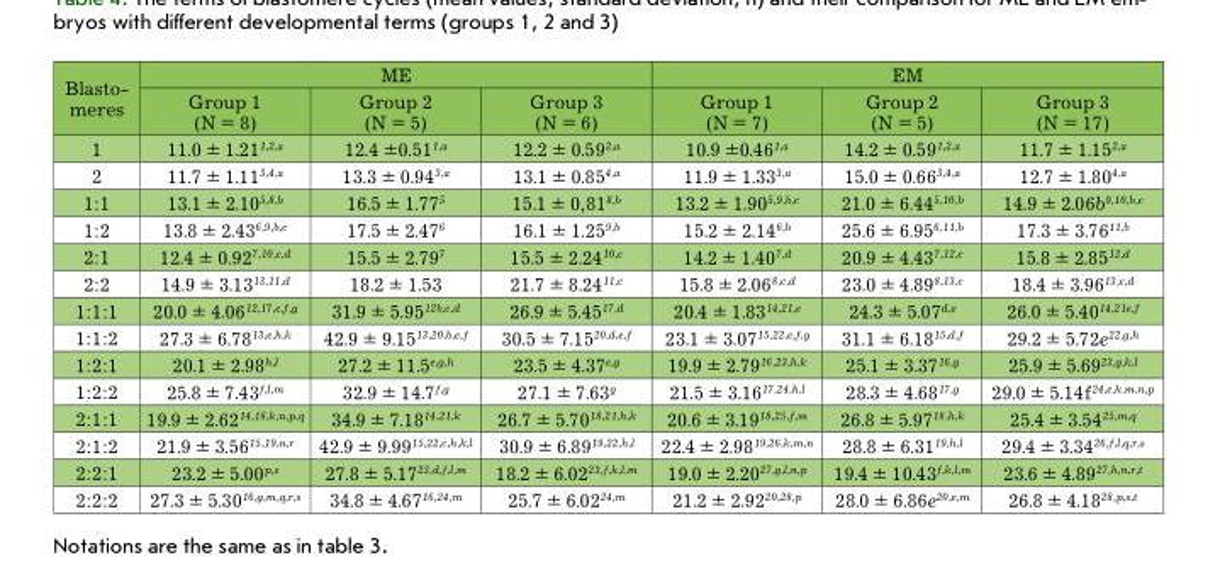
<table><thead><tr><td rowspan="2">Blasto- meres</td><td colspan="3">ME</td><td colspan="3">EM</td></tr><tr><td>Group 1 (N = 8)</td><td>Group 2 (N = 5)</td><td>Group 3 (N = 6)</td><td>Group 1 (N = 7)</td><td>Group 2 (N = 5)</td><td>Group 3 (N = 17)</td></tr></thead><tbody><tr><td>1</td><td>11.0 ± 1.21<sup>1,2,a</sup></td><td>12.4 ±0.51<sup>1,a</sup></td><td>12.2 ± 0.59<sup>2,a</sup></td><td>10.9 ±0.46<sup>1,a</sup></td><td>14.2 ± 0.59<sup>1,2,a</sup></td><td>11.7 ± 1.15<sup>2,a</sup></td></tr><tr><td>2</td><td>11.7 ± 1.11<sup>3,4,a</sup></td><td>13.3 ± 0.94<sup>3,a</sup></td><td>13.1 ± 0.85<sup>4,a</sup></td><td>11.9 ± 1.33<sup>3,a</sup></td><td>15.0 ± 0.66<sup>3,4,a</sup></td><td>12.7 ± 1.80<sup>4,a</sup></td></tr><tr><td>1:1</td><td>13.1 ± 2.10<sup>5,8,b</sup></td><td>16.5 ± 1.77<sup>5</sup></td><td>15.1 ± 0,81<sup>8,b</sup></td><td>13.2 ± 1.90<sup>5,9,b,c</sup></td><td>21.0 ± 6.44<sup>5,10,b</sup></td><td>14.9 ± 2.06<sup>b9,10,b,c</sup></td></tr><tr><td>1:2</td><td>13.8 ± 2.43<sup>6,9,b,c</sup></td><td>17.5 ± 2.47<sup>6</sup></td><td>16.1 ± 1.25<sup>9,b</sup></td><td>15.2 ± 2.14<sup>6,b</sup></td><td>25.6 ± 6.95<sup>6,11,b</sup></td><td>17.3 ± 3.76<sup>11,b</sup></td></tr><tr><td>2:1</td><td>12.4 ± 0.92<sup>7,10,c,d</sup></td><td>15.5 ± 2.79<sup>7</sup></td><td>15.5 ± 2.24<sup>10,c</sup></td><td>14.2 ± 1.40<sup>7,d</sup></td><td>20.9 ± 4.43<sup>7,12,c</sup></td><td>15.8 ± 2.85<sup>12,d</sup></td></tr><tr><td>2:2</td><td>14.9 ± 3.13<sup>13,11,d</sup></td><td>18.2 ± 1.53</td><td>21.7 ± 8.24<sup>11,c</sup></td><td>15.8 ± 2.06<sup>8,c,d</sup></td><td>23.0 ± 4.89<sup>8,13,c</sup></td><td>18.4 ± 3.96<sup>13,c,d</sup></td></tr><tr><td>1:1:1</td><td>20.0 ± 4.06<sup>12,17,e,f,g</sup></td><td>31.9 ± 5.95<sup>12b,c,d</sup></td><td>26.9 ± 5.45<sup>17,d</sup></td><td>20.4 ± 1.83<sup>14,21,e</sup></td><td>24.3 ± 5.07<sup>d,e</sup></td><td>26.0 ± 5.40<sup>14,21e,f</sup></td></tr><tr><td>1:1:2</td><td>27.3 ± 6.78<sup>13,e,h,k</sup></td><td>42.9 ± 9.15<sup>13,20,b,e,f</sup></td><td>30.5 ± 7.15<sup>20,d,e,f</sup></td><td>23.1 ± 3.07<sup>15,22,e,f,g</sup></td><td>31.1 ± 6.18<sup>15,d,f</sup></td><td>29.2 ± 5.72<sup>e22,g,h</sup></td></tr><tr><td>1:2:1</td><td>20.1 ± 2.98<sup>h,l</sup></td><td>27.2 ± 11.5<sup>e,g,h</sup></td><td>23.5 ± 4.37<sup>e,g</sup></td><td>19.9 ± 2.79<sup>16,23,h,k</sup></td><td>25.1 ± 3.37<sup>16,g</sup></td><td>25.9 ± 5.69<sup>23,g,k,l</sup></td></tr><tr><td>1:2:2</td><td>25.8 ± 7.43<sup>f,l,m</sup></td><td>32.9 ± 14.7<sup>f,g</sup></td><td>27.1 ± 7.63<sup>g</sup></td><td>21.5 ± 3.16<sup>17,24,h,l</sup></td><td>28.3 ± 4.68<sup>17,g</sup></td><td>29.0 ± 5.14<sup>f24,e,k,m,n,p</sup></td></tr><tr><td>2:1:1</td><td>19.9 ± 2.62<sup>14,18,k,n,p,q</sup></td><td>34.9 ± 7.18<sup>14,21,k</sup></td><td>26.7 ± 5.70<sup>18,21,h,k</sup></td><td>20.6 ± 3.19<sup>18,25,f,m</sup></td><td>26.8 ± 5.97<sup>18,h,k</sup></td><td>25.4 ± 3.54<sup>25,m,q</sup></td></tr><tr><td>2:1:2</td><td>21.9 ± 3.56<sup>15,19,n,r</sup></td><td>42.9 ± 9.99<sup>15,22,c,h,k,l</sup></td><td>30.9 ± 6.89<sup>19,22,h,l</sup></td><td>22.4 ± 2.98<sup>19,26,k,m,n</sup></td><td>28.8 ± 6.31<sup>19,h,l</sup></td><td>29.4 ± 3.34<sup>26,f,l,q,r,s</sup></td></tr><tr><td>2:2:1</td><td>23.2 ± 5.00<sup>p,s</sup></td><td>27.8 ± 5.17<sup>23,d,f,l,m</sup></td><td>18.2 ± 6.02<sup>23,f,k,l,m</sup></td><td>19.0 ± 2.20<sup>27,g,l,n,p</sup></td><td>19.4 ± 10.4<sup>3f,k,l,m</sup></td><td>23.6 ± 4.89<sup>27,h,n,r,t</sup></td></tr><tr><td>2:2:2</td><td>27.3 ± 5.30<sup>16,g,m,q,r,s</sup></td><td>34.8 ± 4.67<sup>16,24,m</sup></td><td>25.7 ± 6.02<sup>24,m</sup></td><td>21.2 ± 2.92<sup>20,28,p</sup></td><td>28.0 ± 6.86<sup>e20,e,m</sup></td><td>26.8 ± 4.18<sup>28,p,s,t</sup></td></tr></tbody></table>